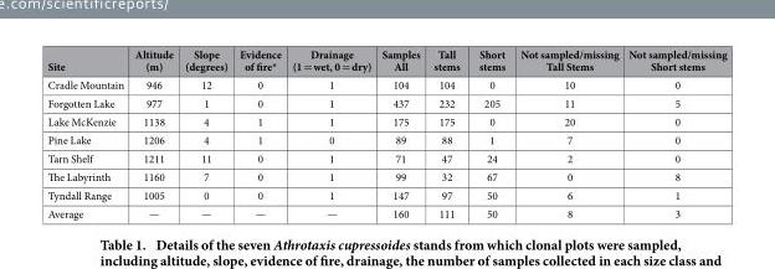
<table><thead><tr><td>Site</td><td>Altitude (m)</td><td>Slope (degrees)</td><td>Evidence of fire*</td><td>Drainage (1 = wet, 0 = dry)</td><td>Samples All</td><td>Tall stems</td><td>Short stems</td><td>Not sampled/missing Tall Stems</td><td>Not sampled/missing Short stems</td></tr></thead><tbody><tr><td>Cradle Mountain</td><td>946</td><td>12</td><td>0</td><td>1</td><td>104</td><td>104</td><td>0</td><td>10</td><td>0</td></tr><tr><td>Forgotten Lake</td><td>977</td><td>1</td><td>0</td><td>1</td><td>437</td><td>232</td><td>205</td><td>11</td><td>5</td></tr><tr><td>Lake McKenzie</td><td>1138</td><td>4</td><td>1</td><td>1</td><td>175</td><td>175</td><td>0</td><td>20</td><td>0</td></tr><tr><td>Pine Lake</td><td>1206</td><td>4</td><td>1</td><td>0</td><td>89</td><td>88</td><td>1</td><td>7</td><td>0</td></tr><tr><td>Tarn Shelf</td><td>1211</td><td>11</td><td>0</td><td>1</td><td>71</td><td>47</td><td>24</td><td>2</td><td>0</td></tr><tr><td>The Labyrinth</td><td>1160</td><td>7</td><td>0</td><td>1</td><td>99</td><td>32</td><td>67</td><td>0</td><td>8</td></tr><tr><td>Tyndall Range</td><td>1005</td><td>0</td><td>0</td><td>1</td><td>147</td><td>97</td><td>50</td><td>6</td><td>1</td></tr><tr><td>Average</td><td>—</td><td>—</td><td>—</td><td>—</td><td>160</td><td>111</td><td>50</td><td>8</td><td>3</td></tr></tbody></table>